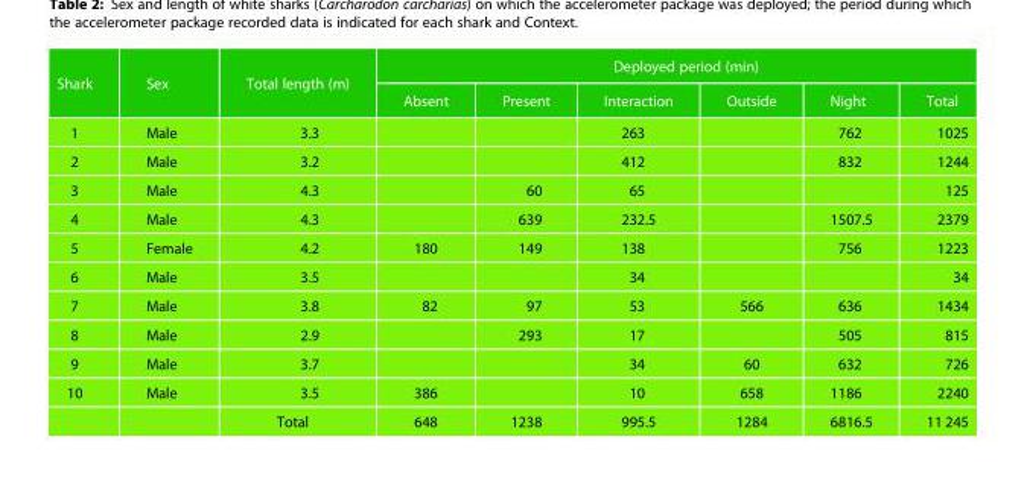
<table><thead><tr><td rowspan="2">Shark</td><td rowspan="2">Sex</td><td rowspan="2">Total length (m)</td><td colspan="6">Deployed period (min)</td></tr><tr><td>Absent</td><td>Present</td><td>Interaction</td><td>Outside</td><td>Night</td><td>Total</td></tr></thead><tbody><tr><td>1</td><td>Male</td><td>3.3</td><td></td><td></td><td>263</td><td></td><td>762</td><td>1025</td></tr><tr><td>2</td><td>Male</td><td>3.2</td><td></td><td></td><td>412</td><td></td><td>832</td><td>1244</td></tr><tr><td>3</td><td>Male</td><td>4.3</td><td></td><td>60</td><td>65</td><td></td><td></td><td>125</td></tr><tr><td>4</td><td>Male</td><td>4.3</td><td></td><td>639</td><td>232.5</td><td></td><td>1507.5</td><td>2379</td></tr><tr><td>5</td><td>Female</td><td>4.2</td><td>180</td><td>149</td><td>138</td><td></td><td>756</td><td>1223</td></tr><tr><td>6</td><td>Male</td><td>3.5</td><td></td><td></td><td>34</td><td></td><td></td><td>34</td></tr><tr><td>7</td><td>Male</td><td>3.8</td><td>82</td><td>97</td><td>53</td><td>566</td><td>636</td><td>1434</td></tr><tr><td>8</td><td>Male</td><td>2.9</td><td></td><td>293</td><td>17</td><td></td><td>505</td><td>815</td></tr><tr><td>9</td><td>Male</td><td>3.7</td><td></td><td></td><td>34</td><td>60</td><td>632</td><td>726</td></tr><tr><td rowspan="2">10</td><td>Male</td><td>3.5</td><td>386</td><td></td><td>10</td><td>658</td><td>1186</td><td>2240</td></tr><tr><td></td><td>Total</td><td>648</td><td>1238</td><td>995.5</td><td>1284</td><td>6816.5</td><td>11 245</td></tr></tbody></table>